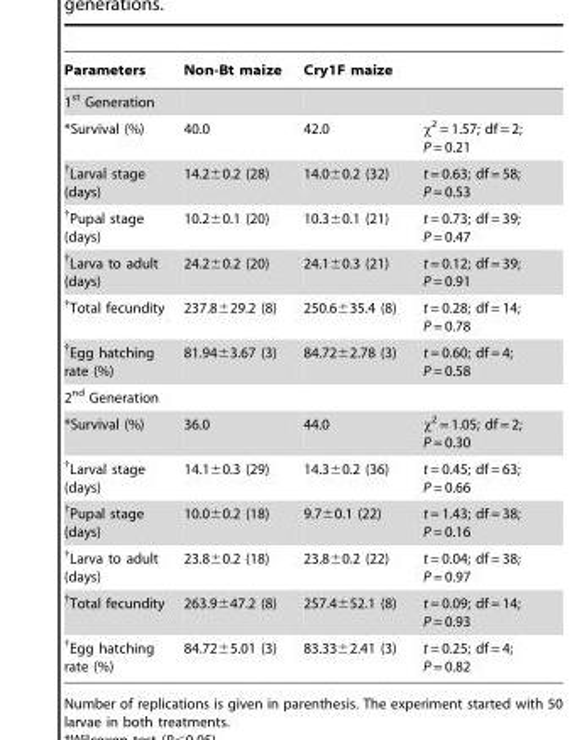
<table><thead><tr><td>Parameters</td><td>Non-Bt maize</td><td>Cry1F maize</td><td></td></tr></thead><tbody><tr><td colspan="4">1<sup>st</sup> Generation</td></tr><tr><td>*Survival (%)</td><td>40.0</td><td>42.0</td><td>χ<sup>2</sup> = 1.57; df = 2; P = 0.21</td></tr><tr><td>†Larval stage (days)</td><td>14.2±0.2 (28)</td><td>14.0±0.2 (32)</td><td>t = 0.63; df = 58; P = 0.53</td></tr><tr><td>†Pupal stage (days)</td><td>10.2±0.1 (20)</td><td>10.3±0.1 (21)</td><td>t = 0.73; df = 39; P = 0.47</td></tr><tr><td>†Larva to adult (days)</td><td>24.2±0.2 (20)</td><td>24.1±0.3 (21)</td><td>t = 0.12; df = 39; P = 0.91</td></tr><tr><td>†Total fecundity</td><td>237.8±29.2 (8)</td><td>250.6±35.4 (8)</td><td>t = 0.28; df = 14; P = 0.78</td></tr><tr><td>†Egg hatching rate (%)</td><td>81.94±3.67 (3)</td><td>84.72±2.78 (3)</td><td>t = 0.60; df = 4; P = 0.58</td></tr><tr><td colspan="4">2<sup>nd</sup> Generation</td></tr><tr><td>*Survival (%)</td><td>36.0</td><td>44.0</td><td>χ<sup>2</sup> = 1.05; df = 2; P = 0.30</td></tr><tr><td>†Larval stage (days)</td><td>14.1±0.3 (29)</td><td>14.3±0.2 (36)</td><td>t = 0.45; df = 63; P = 0.66</td></tr><tr><td>†Pupal stage (days)</td><td>10.0±0.2 (18)</td><td>9.7±0.1 (22)</td><td>t = 1.43; df = 38; P = 0.16</td></tr><tr><td>†Larva to adult (days)</td><td>23.8±0.2 (18)</td><td>23.8±0.2 (22)</td><td>t = 0.04; df = 38; P = 0.97</td></tr><tr><td>†Total fecundity</td><td>263.9±47.2 (8)</td><td>257.4±52.1 (8)</td><td>t = 0.09; df = 14; P = 0.93</td></tr><tr><td>†Egg hatching rate (%)</td><td>84.72±5.01 (3)</td><td>83.33±2.41 (3)</td><td>t = 0.25; df = 4; P = 0.82</td></tr></tbody></table>